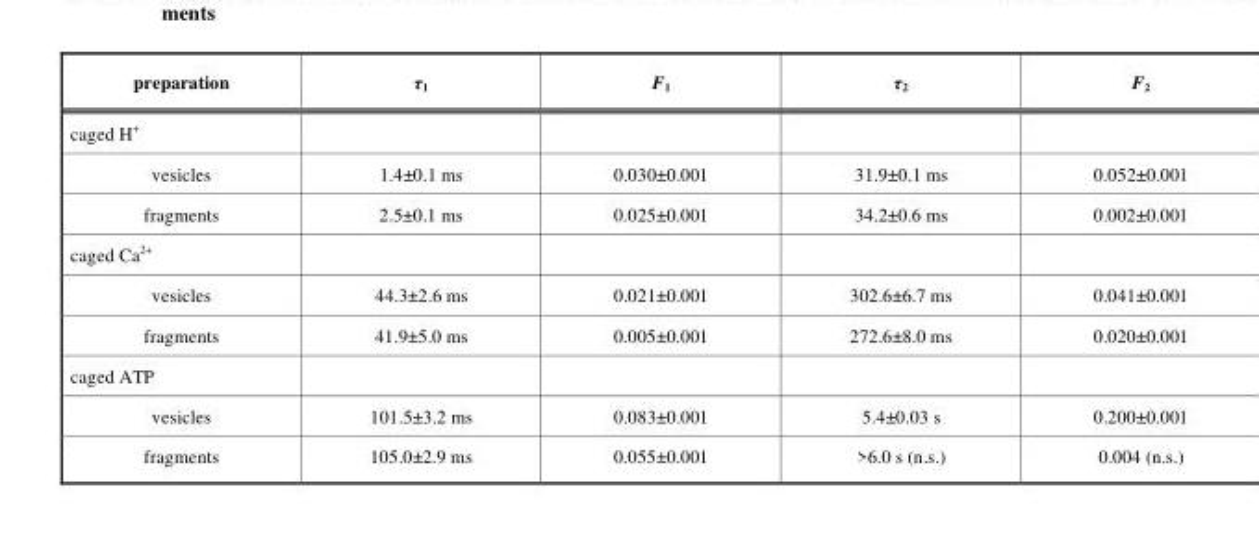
<table><tbody><tr><td>preparation</td><td>τ<sub>1</sub></td><td>F<sub>1</sub></td><td>τ<sub>2</sub></td><td>F<sub>2</sub></td></tr><tr><td colspan="5">caged H<sup>+</sup></td></tr><tr><td>vesicles</td><td>1.4±0.1 ms</td><td>0.030±0.001</td><td>31.9±0.1 ms</td><td>0.052±0.001</td></tr><tr><td>fragments</td><td>2.5±0.1 ms</td><td>0.025±0.001</td><td>34.2±0.6 ms</td><td>0.002±0.001</td></tr><tr><td colspan="5">caged Ca<sup>2+</sup></td></tr><tr><td>vesicles</td><td>44.3±2.6 ms</td><td>0.021±0.001</td><td>302.6±6.7 ms</td><td>0.041±0.001</td></tr><tr><td>fragments</td><td>41.9±5.0 ms</td><td>0.005±0.001</td><td>272.6±8.0 ms</td><td>0.020±0.001</td></tr><tr><td colspan="5">caged ATP</td></tr><tr><td>vesicles</td><td>101.5±3.2 ms</td><td>0.083±0.001</td><td>5.4±0.03 s</td><td>0.200±0.001</td></tr><tr><td>fragments</td><td>105.0±2.9 ms</td><td>0.055±0.001</td><td>&gt;6.0 s (n.s.)</td><td>0.004 (n.s.)</td></tr></tbody></table>